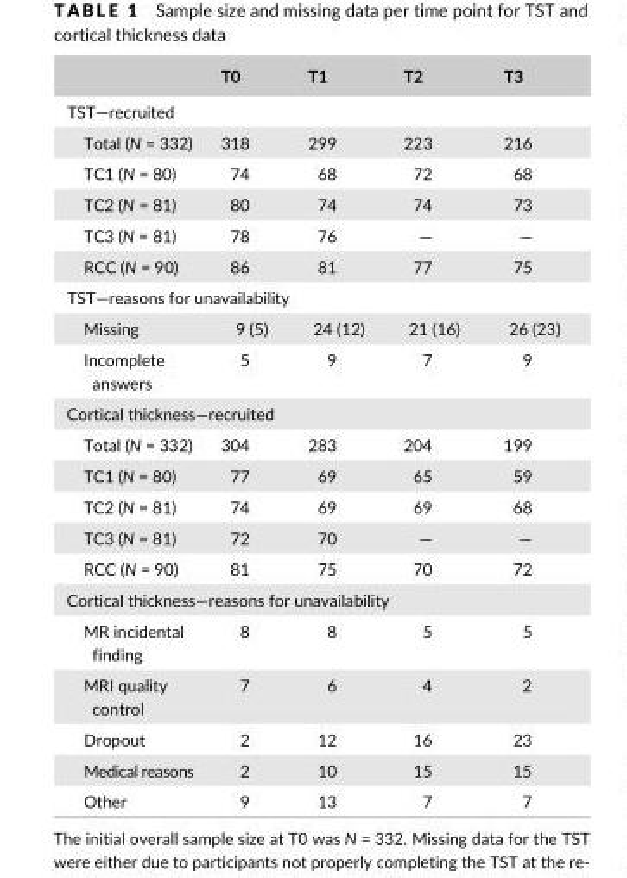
<table><thead><tr><td></td><td>T0</td><td>T1</td><td>T2</td><td>T3</td></tr></thead><tbody><tr><td colspan="5">TST—recruited</td></tr><tr><td>Total (N = 332)</td><td>318</td><td>299</td><td>223</td><td>216</td></tr><tr><td>TC1 (N = 80)</td><td>74</td><td>68</td><td>72</td><td>68</td></tr><tr><td>TC2 (N = 81)</td><td>80</td><td>74</td><td>74</td><td>73</td></tr><tr><td>TC3 (N = 81)</td><td>78</td><td>76</td><td>—</td><td>—</td></tr><tr><td>RCC (N = 90)</td><td>86</td><td>81</td><td>77</td><td>75</td></tr><tr><td colspan="5">TST—reasons for unavailability</td></tr><tr><td>Missing</td><td>9 (5)</td><td>24 (12)</td><td>21 (16)</td><td>26 (23)</td></tr><tr><td>Incomplete answers</td><td>5</td><td>9</td><td>7</td><td>9</td></tr><tr><td colspan="5">Cortical thickness—recruited</td></tr><tr><td>Total (N = 332)</td><td>304</td><td>283</td><td>204</td><td>199</td></tr><tr><td>TC1 (N = 80)</td><td>77</td><td>69</td><td>65</td><td>59</td></tr><tr><td>TC2 (N = 81)</td><td>74</td><td>69</td><td>69</td><td>68</td></tr><tr><td>TC3 (N = 81)</td><td>72</td><td>70</td><td>—</td><td>—</td></tr><tr><td>RCC (N = 90)</td><td>81</td><td>75</td><td>70</td><td>72</td></tr><tr><td colspan="5">Cortical thickness—reasons for unavailability</td></tr><tr><td>MR incidental finding</td><td>8</td><td>8</td><td>5</td><td>5</td></tr><tr><td>MRI quality control</td><td>7</td><td>6</td><td>4</td><td>2</td></tr><tr><td>Dropout</td><td>2</td><td>12</td><td>16</td><td>23</td></tr><tr><td>Medical reasons</td><td>2</td><td>10</td><td>15</td><td>15</td></tr><tr><td>Other</td><td>9</td><td>13</td><td>7</td><td>7</td></tr></tbody></table>